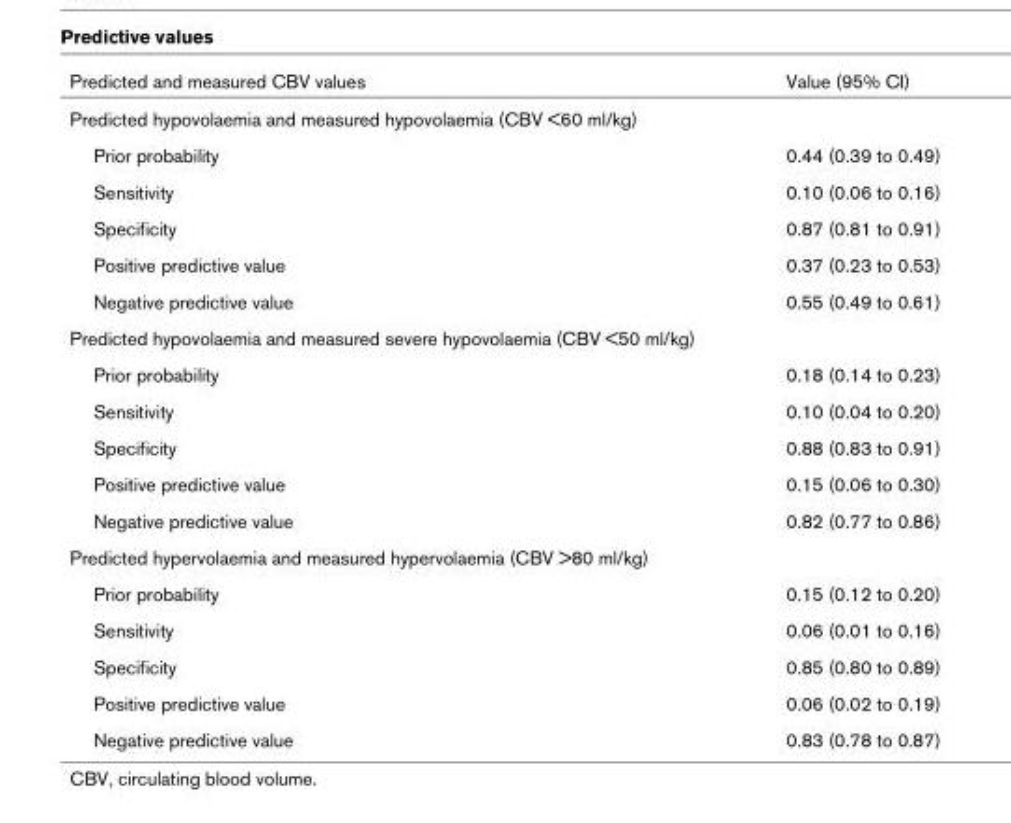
<table><thead><tr><td>Predicted and measured CBV values</td><td>Value (95% CI)</td></tr></thead><tbody><tr><td colspan="2">Predicted hypovolaemia and measured hypovolaemia (CBV &lt;60 ml/kg)</td></tr><tr><td>Prior probability</td><td>0.44 (0.39 to 0.49)</td></tr><tr><td>Sensitivity</td><td>0.10 (0.06 to 0.16)</td></tr><tr><td>Specificity</td><td>0.87 (0.81 to 0.91)</td></tr><tr><td>Positive predictive value</td><td>0.37 (0.23 to 0.53)</td></tr><tr><td>Negative predictive value</td><td>0.55 (0.49 to 0.61)</td></tr><tr><td colspan="2">Predicted hypovolaemia and measured severe hypovolaemia (CBV &lt;50 ml/kg)</td></tr><tr><td>Prior probability</td><td>0.18 (0.14 to 0.23)</td></tr><tr><td>Sensitivity</td><td>0.10 (0.04 to 0.20)</td></tr><tr><td>Specificity</td><td>0.88 (0.83 to 0.91)</td></tr><tr><td>Positive predictive value</td><td>0.15 (0.06 to 0.30)</td></tr><tr><td>Negative predictive value</td><td>0.82 (0.77 to 0.86)</td></tr><tr><td colspan="2">Predicted hypervolaemia and measured hypervolaemia (CBV &gt;80 ml/kg)</td></tr><tr><td>Prior probability</td><td>0.15 (0.12 to 0.20)</td></tr><tr><td>Sensitivity</td><td>0.06 (0.01 to 0.16)</td></tr><tr><td>Specificity</td><td>0.85 (0.80 to 0.89)</td></tr><tr><td>Positive predictive value</td><td>0.06 (0.02 to 0.19)</td></tr><tr><td>Negative predictive value</td><td>0.83 (0.78 to 0.87)</td></tr></tbody></table>